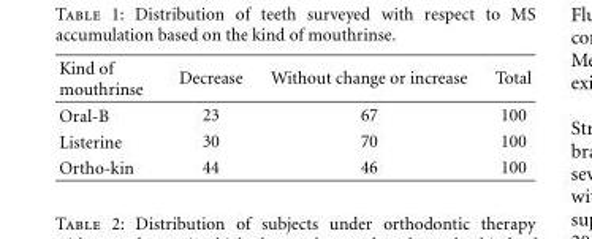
<table><thead><tr><td>Kind of mouthrinse</td><td>Decrease</td><td>Without change or increase</td><td>Total</td></tr></thead><tbody><tr><td>Oral-B</td><td>23</td><td>67</td><td>100</td></tr><tr><td>Listerine</td><td>30</td><td>70</td><td>100</td></tr><tr><td>Ortho-kin</td><td>44</td><td>46</td><td>100</td></tr></tbody></table>